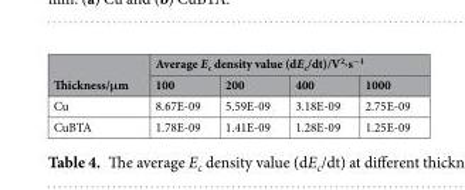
<table><thead><tr><td rowspan="2">Thickness/μm</td><td colspan="4">Average E<sub>c</sub> density value (dE<sub>c</sub>/dt)/V<sup>2</sup>·s<sup>−1</sup></td></tr><tr><td>100</td><td>200</td><td>400</td><td>1000</td></tr></thead><tbody><tr><td>Cu</td><td>8.67E-09</td><td>5.59E-09</td><td>3.18E-09</td><td>2.75E-09</td></tr><tr><td>CuBTA</td><td>1.78E-09</td><td>1.41E-09</td><td>1.28E-09</td><td>1.25E-09</td></tr></tbody></table>